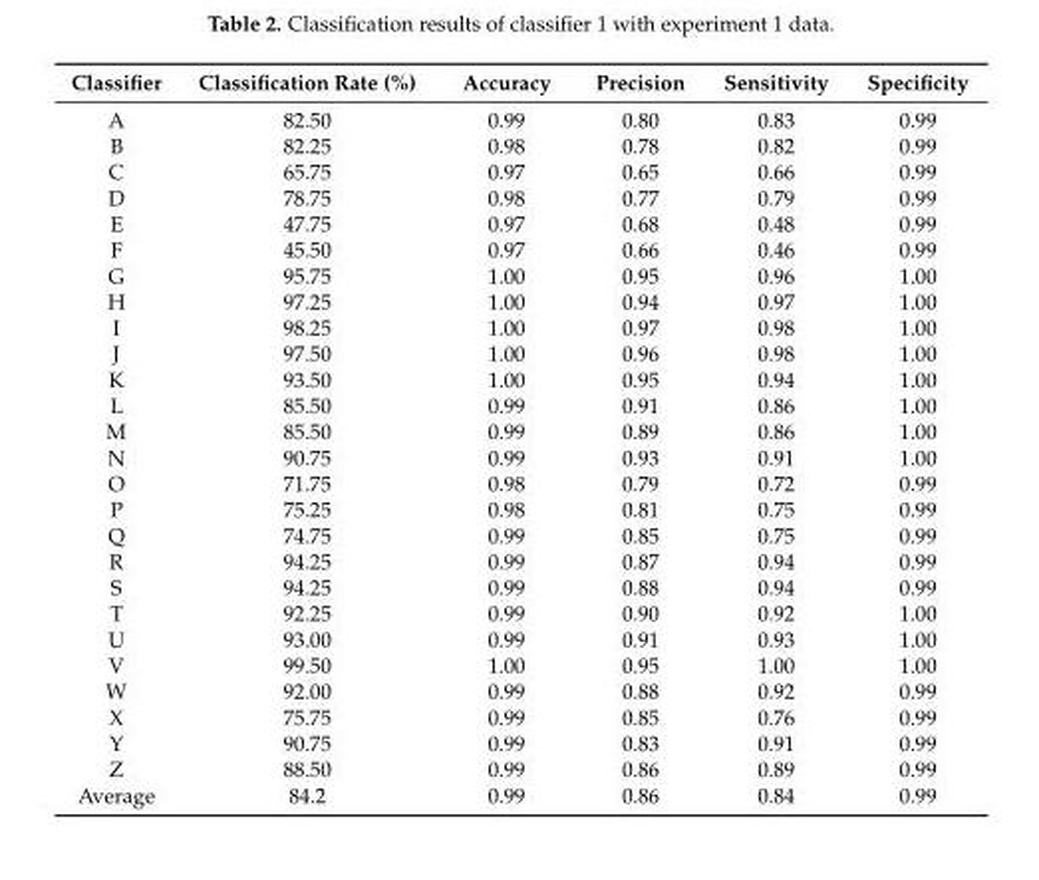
<table><thead><tr><td>Classifier</td><td>Classification Rate (%)</td><td>Accuracy</td><td>Precision</td><td>Sensitivity</td><td>Specificity</td></tr></thead><tbody><tr><td>A</td><td>82.50</td><td>0.99</td><td>0.80</td><td>0.83</td><td>0.99</td></tr><tr><td>B</td><td>82.25</td><td>0.98</td><td>0.78</td><td>0.82</td><td>0.99</td></tr><tr><td>C</td><td>65.75</td><td>0.97</td><td>0.65</td><td>0.66</td><td>0.99</td></tr><tr><td>D</td><td>78.75</td><td>0.98</td><td>0.77</td><td>0.79</td><td>0.99</td></tr><tr><td>E</td><td>47.75</td><td>0.97</td><td>0.68</td><td>0.48</td><td>0.99</td></tr><tr><td>F</td><td>45.50</td><td>0.97</td><td>0.66</td><td>0.46</td><td>0.99</td></tr><tr><td>G</td><td>95.75</td><td>1.00</td><td>0.95</td><td>0.96</td><td>1.00</td></tr><tr><td>H</td><td>97.25</td><td>1.00</td><td>0.94</td><td>0.97</td><td>1.00</td></tr><tr><td>I</td><td>98.25</td><td>1.00</td><td>0.97</td><td>0.98</td><td>1.00</td></tr><tr><td>J</td><td>97.50</td><td>1.00</td><td>0.96</td><td>0.98</td><td>1.00</td></tr><tr><td>K</td><td>93.50</td><td>1.00</td><td>0.95</td><td>0.94</td><td>1.00</td></tr><tr><td>L</td><td>85.50</td><td>0.99</td><td>0.91</td><td>0.86</td><td>1.00</td></tr><tr><td>M</td><td>85.50</td><td>0.99</td><td>0.89</td><td>0.86</td><td>1.00</td></tr><tr><td>N</td><td>90.75</td><td>0.99</td><td>0.93</td><td>0.91</td><td>1.00</td></tr><tr><td>O</td><td>71.75</td><td>0.98</td><td>0.79</td><td>0.72</td><td>0.99</td></tr><tr><td>P</td><td>75.25</td><td>0.98</td><td>0.81</td><td>0.75</td><td>0.99</td></tr><tr><td>Q</td><td>74.75</td><td>0.99</td><td>0.85</td><td>0.75</td><td>0.99</td></tr><tr><td>R</td><td>94.25</td><td>0.99</td><td>0.87</td><td>0.94</td><td>0.99</td></tr><tr><td>S</td><td>94.25</td><td>0.99</td><td>0.88</td><td>0.94</td><td>0.99</td></tr><tr><td>T</td><td>92.25</td><td>0.99</td><td>0.90</td><td>0.92</td><td>1.00</td></tr><tr><td>U</td><td>93.00</td><td>0.99</td><td>0.91</td><td>0.93</td><td>1.00</td></tr><tr><td>V</td><td>99.50</td><td>1.00</td><td>0.95</td><td>1.00</td><td>1.00</td></tr><tr><td>W</td><td>92.00</td><td>0.99</td><td>0.88</td><td>0.92</td><td>0.99</td></tr><tr><td>X</td><td>75.75</td><td>0.99</td><td>0.85</td><td>0.76</td><td>0.99</td></tr><tr><td>Y</td><td>90.75</td><td>0.99</td><td>0.83</td><td>0.91</td><td>0.99</td></tr><tr><td>Z</td><td>88.50</td><td>0.99</td><td>0.86</td><td>0.89</td><td>0.99</td></tr><tr><td>Average</td><td>84.2</td><td>0.99</td><td>0.86</td><td>0.84</td><td>0.99</td></tr></tbody></table>